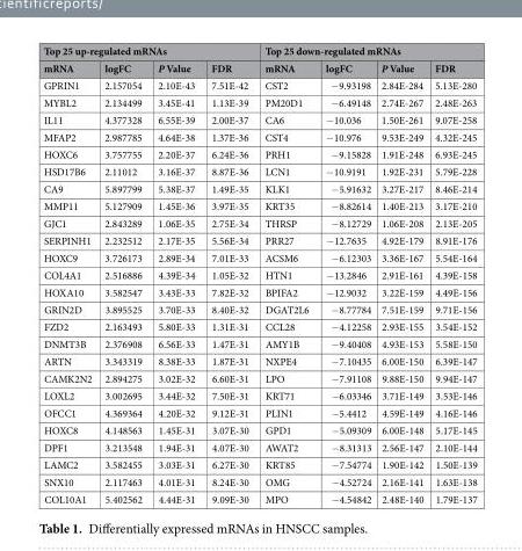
<table><thead><tr><td colspan="4">Top 25 up-regulated mRNAs</td><td colspan="4">Top 25 down-regulated mRNAs</td></tr><tr><td>mRNA</td><td>logFC</td><td>P Value</td><td>FDR</td><td>mRNA</td><td>logFC</td><td>P Value</td><td>FDR</td></tr></thead><tbody><tr><td>GPRIN1</td><td>2.157054</td><td>2.10E-43</td><td>7.51E-42</td><td>CST2</td><td>−9.93198</td><td>2.84E-284</td><td>5.13E-280</td></tr><tr><td>MYBL2</td><td>2.134499</td><td>3.45E-41</td><td>1.13E-39</td><td>PM20D1</td><td>−6.49148</td><td>2.74E-267</td><td>2.48E-263</td></tr><tr><td>IL11</td><td>4.377328</td><td>6.55E-39</td><td>2.00E-37</td><td>CA6</td><td>−10.036</td><td>1.50E-261</td><td>9.07E-258</td></tr><tr><td>MFAP2</td><td>2.987785</td><td>4.64E-38</td><td>1.37E-36</td><td>CST4</td><td>−10.976</td><td>9.53E-249</td><td>4.32E-245</td></tr><tr><td>HOXC6</td><td>3.757755</td><td>2.20E-37</td><td>6.24E-36</td><td>PRH1</td><td>−9.15828</td><td>1.91E-248</td><td>6.93E-245</td></tr><tr><td>HSD17B6</td><td>2.11012</td><td>3.16E-37</td><td>8.87E-36</td><td>LCN1</td><td>−10.9191</td><td>1.92E-231</td><td>5.79E-228</td></tr><tr><td>CA9</td><td>5.897799</td><td>5.38E-37</td><td>1.49E-35</td><td>KLK1</td><td>−5.91632</td><td>3.27E-217</td><td>8.46E-214</td></tr><tr><td>MMP11</td><td>5.127909</td><td>1.45E-36</td><td>3.97E-35</td><td>KRT35</td><td>−8.82614</td><td>1.40E-213</td><td>3.17E-210</td></tr><tr><td>GJC1</td><td>2.843289</td><td>1.06E-35</td><td>2.75E-34</td><td>THRSP</td><td>−8.12729</td><td>1.06E-208</td><td>2.13E-205</td></tr><tr><td>SERPINH1</td><td>2.232512</td><td>2.17E-35</td><td>5.56E-34</td><td>PRR27</td><td>−12.7635</td><td>4.92E-179</td><td>8.91E-176</td></tr><tr><td>HOXC9</td><td>3.726173</td><td>2.89E-34</td><td>7.01E-33</td><td>ACSM6</td><td>−6.12303</td><td>3.36E-167</td><td>5.54E-164</td></tr><tr><td>COL4A1</td><td>2.516886</td><td>4.39E-34</td><td>1.05E-32</td><td>HTN1</td><td>−13.2846</td><td>2.91E-161</td><td>4.39E-158</td></tr><tr><td>HOXA10</td><td>3.582547</td><td>3.43E-33</td><td>7.82E-32</td><td>BPIFA2</td><td>−12.9032</td><td>3.22E-159</td><td>4.49E-156</td></tr><tr><td>GRIN2D</td><td>3.895525</td><td>3.70E-33</td><td>8.40E-32</td><td>DGAT2L6</td><td>−8.77784</td><td>7.51E-159</td><td>9.71E-156</td></tr><tr><td>FZD2</td><td>2.163493</td><td>5.80E-33</td><td>1.31E-31</td><td>CCL28</td><td>−4.12258</td><td>2.93E-155</td><td>3.54E-152</td></tr><tr><td>DNMT3B</td><td>2.376908</td><td>6.56E-33</td><td>1.47E-31</td><td>AMY1B</td><td>−9.40408</td><td>4.93E-153</td><td>5.58E-150</td></tr><tr><td>ARTN</td><td>3.343319</td><td>8.38E-33</td><td>1.87E-31</td><td>NXPE4</td><td>−7.10435</td><td>6.00E-150</td><td>6.39E-147</td></tr><tr><td>CAMK2N2</td><td>2.894275</td><td>3.02E-32</td><td>6.60E-31</td><td>LPO</td><td>−7.91108</td><td>9.88E-150</td><td>9.94E-147</td></tr><tr><td>LOXL2</td><td>3.002695</td><td>3.44E-32</td><td>7.50E-31</td><td>KRT71</td><td>−6.03346</td><td>3.71E-149</td><td>3.53E-146</td></tr><tr><td>OFCC1</td><td>4.369364</td><td>4.20E-32</td><td>9.12E-31</td><td>PLIN1</td><td>−5.4412</td><td>4.59E-149</td><td>4.16E-146</td></tr><tr><td>HOXC8</td><td>4.148563</td><td>1.45E-31</td><td>3.07E-30</td><td>GPD1</td><td>−5.09309</td><td>6.00E-148</td><td>5.17E-145</td></tr><tr><td>DPF1</td><td>3.213548</td><td>1.94E-31</td><td>4.07E-30</td><td>AWAT2</td><td>−8.31313</td><td>2.56E-147</td><td>2.10E-144</td></tr><tr><td>LAMC2</td><td>3.582455</td><td>3.03E-31</td><td>6.27E-30</td><td>KRT85</td><td>−7.54774</td><td>1.90E-142</td><td>1.50E-139</td></tr><tr><td>SNX10</td><td>2.117463</td><td>4.01E-31</td><td>8.24E-30</td><td>OMG</td><td>−4.52724</td><td>2.16E-141</td><td>1.63E-138</td></tr><tr><td>COL10A1</td><td>5.402562</td><td>4.44E-31</td><td>9.09E-30</td><td>MPO</td><td>−4.54842</td><td>2.48E-140</td><td>1.79E-137</td></tr></tbody></table>